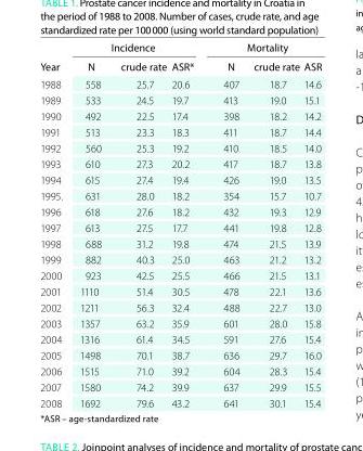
<table><thead><tr><td rowspan="2">Year</td><td colspan="3">Incidence</td><td colspan="3">Mortality</td></tr><tr><td>n</td><td>crude rate</td><td>Asr*</td><td>n</td><td>crude rate</td><td>Asr</td></tr></thead><tbody><tr><td>1988</td><td>558</td><td>25.7</td><td>20.6</td><td>407</td><td>18.7</td><td>14.6</td></tr><tr><td>1989</td><td>533</td><td>24.5</td><td>19.7</td><td>413</td><td>19.0</td><td>15.1</td></tr><tr><td>1990</td><td>492</td><td>22.5</td><td>17.4</td><td>398</td><td>18.2</td><td>14.2</td></tr><tr><td>1991</td><td>513</td><td>23.3</td><td>18.3</td><td>411</td><td>18.7</td><td>14.4</td></tr><tr><td>1992</td><td>560</td><td>25.3</td><td>19.2</td><td>410</td><td>18.5</td><td>14.0</td></tr><tr><td>1993</td><td>610</td><td>27.3</td><td>20.2</td><td>417</td><td>18.7</td><td>13.8</td></tr><tr><td>1994</td><td>615</td><td>27.4</td><td>19.4</td><td>426</td><td>19.0</td><td>13.5</td></tr><tr><td>1995.</td><td>631</td><td>28.0</td><td>18.2</td><td>354</td><td>15.7</td><td>10.7</td></tr><tr><td>1996</td><td>618</td><td>27.6</td><td>18.2</td><td>432</td><td>19.3</td><td>12.9</td></tr><tr><td>1997</td><td>613</td><td>27.5</td><td>17.7</td><td>441</td><td>19.8</td><td>12.8</td></tr><tr><td>1998</td><td>688</td><td>31.2</td><td>19.8</td><td>474</td><td>21.5</td><td>13.9</td></tr><tr><td>1999</td><td>882</td><td>40.3</td><td>25.0</td><td>463</td><td>21.2</td><td>13.2</td></tr><tr><td>2000</td><td>923</td><td>42.5</td><td>25.5</td><td>466</td><td>21.5</td><td>13.1</td></tr><tr><td>2001</td><td>1110</td><td>51.4</td><td>30.5</td><td>478</td><td>22.1</td><td>13.6</td></tr><tr><td>2002</td><td>1211</td><td>56.3</td><td>32.4</td><td>488</td><td>22.7</td><td>13.0</td></tr><tr><td>2003</td><td>1357</td><td>63.2</td><td>35.9</td><td>601</td><td>28.0</td><td>15.8</td></tr><tr><td>2004</td><td>1316</td><td>61.4</td><td>34.5</td><td>591</td><td>27.6</td><td>15.4</td></tr><tr><td>2005</td><td>1498</td><td>70.1</td><td>38.7</td><td>636</td><td>29.7</td><td>16.0</td></tr><tr><td>2006</td><td>1515</td><td>71.0</td><td>39.2</td><td>604</td><td>28.3</td><td>15.4</td></tr><tr><td>2007</td><td>1580</td><td>74.2</td><td>39.9</td><td>637</td><td>29.9</td><td>15.5</td></tr><tr><td>2008</td><td>1692</td><td>79.6</td><td>43.2</td><td>641</td><td>30.1</td><td>15.4</td></tr></tbody></table>